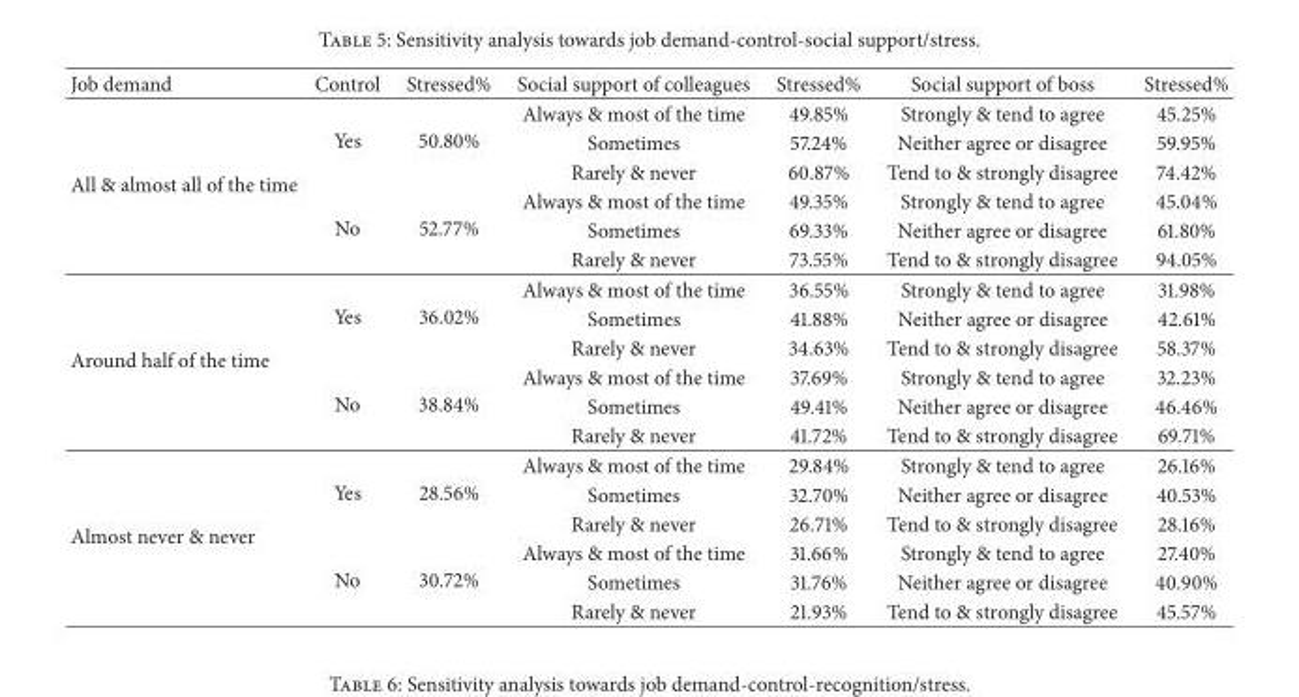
<table><thead><tr><td>Job demand</td><td>Control</td><td>Stressed%</td><td>Social support of colleagues</td><td>Stressed%</td><td>Social support of boss</td><td>Stressed%</td></tr></thead><tbody><tr><td rowspan="6">All &amp; almost all of the time</td><td rowspan="3">Yes</td><td rowspan="3">50.80%</td><td>Always &amp; most of the time</td><td>49.85%</td><td>Strongly &amp; tend to agree</td><td>45.25%</td></tr><tr><td>Sometimes</td><td>57.24%</td><td>Neither agree or disagree</td><td>59.95%</td></tr><tr><td>Rarely &amp; never</td><td>60.87%</td><td>Tend to &amp; strongly disagree</td><td>74.42%</td></tr><tr><td rowspan="3">No</td><td rowspan="3">52.77%</td><td>Always &amp; most of the time</td><td>49.35%</td><td>Strongly &amp; tend to agree</td><td>45.04%</td></tr><tr><td>Sometimes</td><td>69.33%</td><td>Neither agree or disagree</td><td>61.80%</td></tr><tr><td>Rarely &amp; never</td><td>73.55%</td><td>Tend to &amp; strongly disagree</td><td>94.05%</td></tr><tr><td rowspan="6">Around half of the time</td><td rowspan="3">Yes</td><td rowspan="3">36.02%</td><td>Always &amp; most of the time</td><td>36.55%</td><td>Strongly &amp; tend to agree</td><td>31.98%</td></tr><tr><td>Sometimes</td><td>41.88%</td><td>Neither agree or disagree</td><td>42.61%</td></tr><tr><td>Rarely &amp; never</td><td>34.63%</td><td>Tend to &amp; strongly disagree</td><td>58.37%</td></tr><tr><td rowspan="3">No</td><td rowspan="3">38.84%</td><td>Always &amp; most of the time</td><td>37.69%</td><td>Strongly &amp; tend to agree</td><td>32.23%</td></tr><tr><td>Sometimes</td><td>49.41%</td><td>Neither agree or disagree</td><td>46.46%</td></tr><tr><td>Rarely &amp; never</td><td>41.72%</td><td>Tend to &amp; strongly disagree</td><td>69.71%</td></tr><tr><td rowspan="6">Almost never &amp; never</td><td rowspan="3">Yes</td><td rowspan="3">28.56%</td><td>Always &amp; most of the time</td><td>29.84%</td><td>Strongly &amp; tend to agree</td><td>26.16%</td></tr><tr><td>Sometimes</td><td>32.70%</td><td>Neither agree or disagree</td><td>40.53%</td></tr><tr><td>Rarely &amp; never</td><td>26.71%</td><td>Tend to &amp; strongly disagree</td><td>28.16%</td></tr><tr><td rowspan="3">No</td><td rowspan="3">30.72%</td><td>Always &amp; most of the time</td><td>31.66%</td><td>Strongly &amp; tend to agree</td><td>27.40%</td></tr><tr><td>Sometimes</td><td>31.76%</td><td>Neither agree or disagree</td><td>40.90%</td></tr><tr><td>Rarely &amp; never</td><td>21.93%</td><td>Tend to &amp; strongly disagree</td><td>45.57%</td></tr></tbody></table>